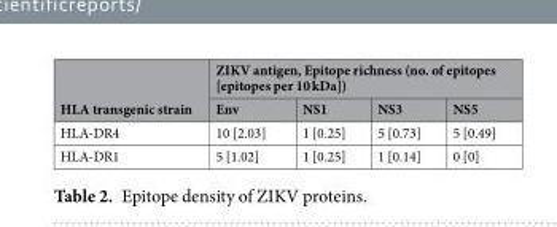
<table><thead><tr><td rowspan="2">HLA transgenic strain</td><td colspan="4">ZIKV antigen, Epitope richness (no. of epitopes [epitopes per 10 kDa])</td></tr><tr><td>Env</td><td>NS1</td><td>NS3</td><td>NS5</td></tr></thead><tbody><tr><td>HLA-DR4</td><td>10 [2.03]</td><td>1 [0.25]</td><td>5 [0.73]</td><td>5 [0.49]</td></tr><tr><td>HLA-DR1</td><td>5 [1.02]</td><td>1 [0.25]</td><td>1 [0.14]</td><td>0 [0]</td></tr></tbody></table>